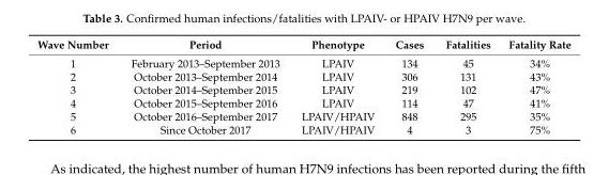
<table><thead><tr><td>Wave Number</td><td>Period</td><td>Phenotype</td><td>Cases</td><td>Fatalities</td><td>Fatality Rate</td></tr></thead><tbody><tr><td>1</td><td>February 2013–September 2013</td><td>LPAIV</td><td>134</td><td>45</td><td>34%</td></tr><tr><td>2</td><td>October 2013–September 2014</td><td>LPAIV</td><td>306</td><td>131</td><td>43%</td></tr><tr><td>3</td><td>October 2014–September 2015</td><td>LPAIV</td><td>219</td><td>102</td><td>47%</td></tr><tr><td>4</td><td>October 2015–September 2016</td><td>LPAIV</td><td>114</td><td>47</td><td>41%</td></tr><tr><td>5</td><td>October 2016–September 2017</td><td>LPAIV/HPAIV</td><td>848</td><td>295</td><td>35%</td></tr><tr><td>6</td><td>Since October 2017</td><td>LPAIV/HPAIV</td><td>4</td><td>3</td><td>75%</td></tr></tbody></table>